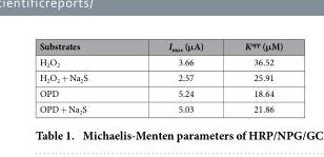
<table><thead><tr><td>Substrates</td><td>I<sub>max</sub> (μ A)</td><td>K<sup>app</sup> (μ M)</td></tr></thead><tbody><tr><td>H<sub>2</sub>O<sub>2</sub></td><td>3.66</td><td>36.52</td></tr><tr><td>H<sub>2</sub>O<sub>2</sub> + Na<sub>2</sub>S</td><td>2.57</td><td>25.91</td></tr><tr><td>OPD</td><td>5.24</td><td>18.64</td></tr><tr><td>OPD + Na<sub>2</sub>S</td><td>5.03</td><td>21.86</td></tr></tbody></table>